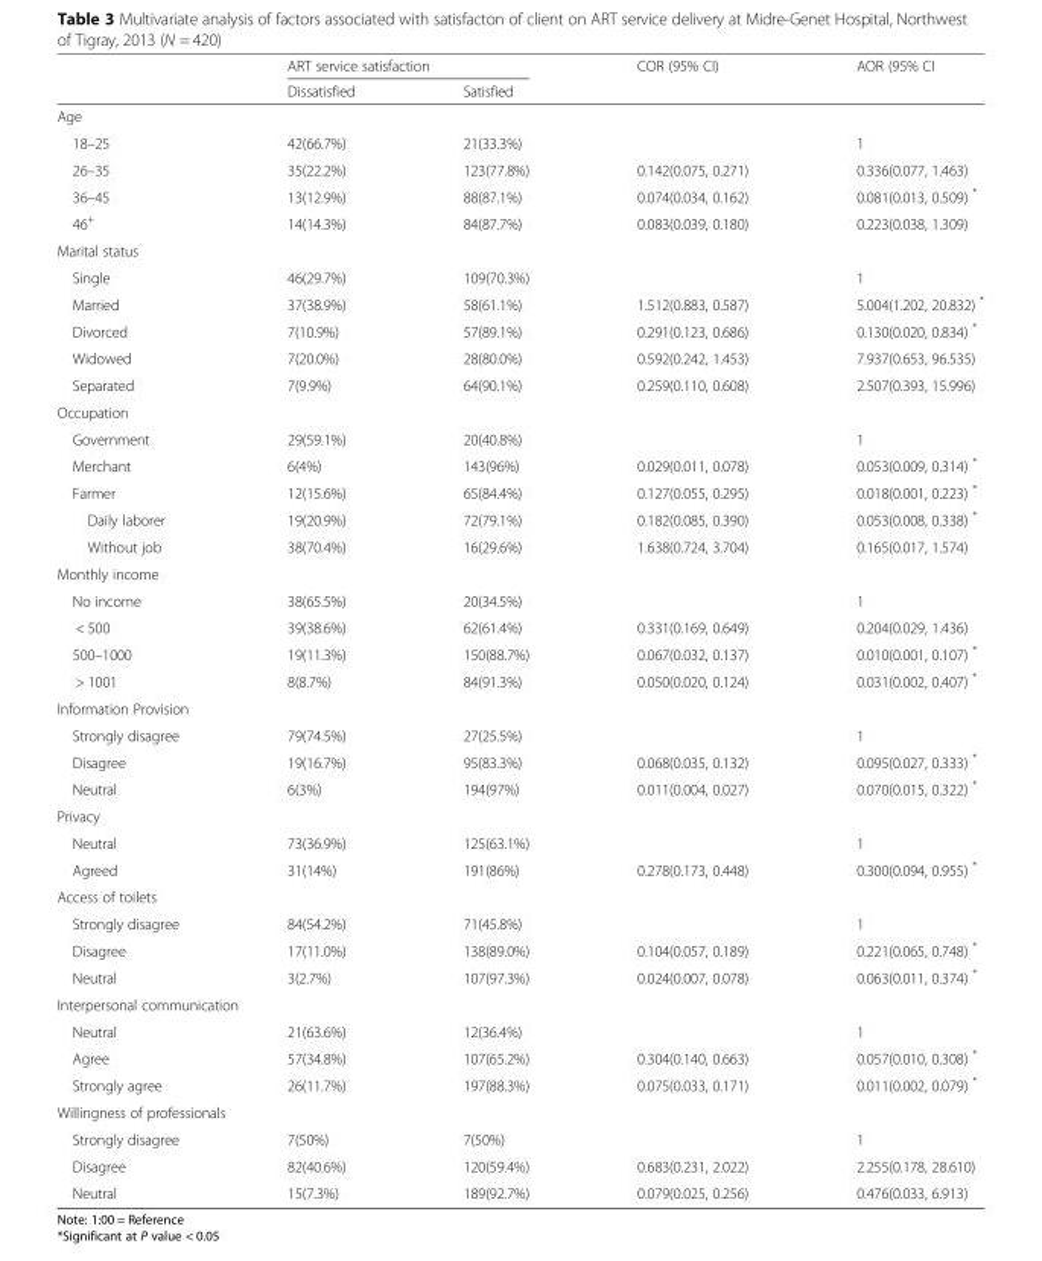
<table><thead><tr><td rowspan="2"></td><td colspan="2">ART service satisfaction</td><td rowspan="2">COR (95% CI)</td><td rowspan="2">AOR (95% CI</td></tr><tr><td>Dissatisfied</td><td>Satisfied</td></tr></thead><tbody><tr><td colspan="5">Age</td></tr><tr><td>18–25</td><td>42(66.7%)</td><td>21(33.3%)</td><td></td><td>1</td></tr><tr><td>26–35</td><td>35(22.2%)</td><td>123(77.8%)</td><td>0.142(0.075, 0.271)</td><td>0.336(0.077, 1.463)</td></tr><tr><td>36–45</td><td>13(12.9%)</td><td>88(87.1%)</td><td>0.074(0.034, 0.162)</td><td>0.081(0.013, 0.509) *</td></tr><tr><td>46<sup>+</sup></td><td>14(14.3%)</td><td>84(87.7%)</td><td>0.083(0.039, 0.180)</td><td>0.223(0.038, 1.309)</td></tr><tr><td colspan="5">Marital status</td></tr><tr><td>Single</td><td>46(29.7%)</td><td>109(70.3%)</td><td></td><td>1</td></tr><tr><td>Married</td><td>37(38.9%)</td><td>58(61.1%)</td><td>1.512(0.883, 0.587)</td><td>5.004(1.202, 20.832) *</td></tr><tr><td>Divorced</td><td>7(10.9%)</td><td>57(89.1%)</td><td>0.291(0.123, 0.686)</td><td>0.130(0.020, 0.834) *</td></tr><tr><td>Widowed</td><td>7(20.0%)</td><td>28(80.0%)</td><td>0.592(0.242, 1.453)</td><td>7.937(0.653, 96.535)</td></tr><tr><td>Separated</td><td>7(9.9%)</td><td>64(90.1%)</td><td>0.259(0.110, 0.608)</td><td>2.507(0.393, 15.996)</td></tr><tr><td colspan="5">Occupation</td></tr><tr><td>Government</td><td>29(59.1%)</td><td>20(40.8%)</td><td></td><td>1</td></tr><tr><td>Merchant</td><td>6(4%)</td><td>143(96%)</td><td>0.029(0.011, 0.078)</td><td>0.053(0.009, 0.314) *</td></tr><tr><td>Farmer</td><td>12(15.6%)</td><td>65(84.4%)</td><td>0.127(0.055, 0.295)</td><td>0.018(0.001, 0.223) *</td></tr><tr><td>Daily laborer</td><td>19(20.9%)</td><td>72(79.1%)</td><td>0.182(0.085, 0.390)</td><td>0.053(0.008, 0.338) *</td></tr><tr><td>Without job</td><td>38(70.4%)</td><td>16(29.6%)</td><td>1.638(0.724, 3.704)</td><td>0.165(0.017, 1.574)</td></tr><tr><td colspan="5">Monthly income</td></tr><tr><td>No income</td><td>38(65.5%)</td><td>20(34.5%)</td><td></td><td>1</td></tr><tr><td>&lt; 500</td><td>39(38.6%)</td><td>62(61.4%)</td><td>0.331(0.169, 0.649)</td><td>0.204(0.029, 1.436)</td></tr><tr><td>500–1000</td><td>19(11.3%)</td><td>150(88.7%)</td><td>0.067(0.032, 0.137)</td><td>0.010(0.001, 0.107) *</td></tr><tr><td>&gt; 1001</td><td>8(8.7%)</td><td>84(91.3%)</td><td>0.050(0.020, 0.124)</td><td>0.031(0.002, 0.407) *</td></tr><tr><td colspan="5">Information Provision</td></tr><tr><td>Strongly disagree</td><td>79(74.5%)</td><td>27(25.5%)</td><td></td><td>1</td></tr><tr><td>Disagree</td><td>19(16.7%)</td><td>95(83.3%)</td><td>0.068(0.035, 0.132)</td><td>0.095(0.027, 0.333) *</td></tr><tr><td>Neutral</td><td>6(3%)</td><td>194(97%)</td><td>0.011(0.004, 0.027)</td><td>0.070(0.015, 0.322) *</td></tr><tr><td colspan="5">Privacy</td></tr><tr><td>Neutral</td><td>73(36.9%)</td><td>125(63.1%)</td><td></td><td>1</td></tr><tr><td>Agreed</td><td>31(14%)</td><td>191(86%)</td><td>0.278(0.173, 0.448)</td><td>0.300(0.094, 0.955) *</td></tr><tr><td colspan="5">Access of toilets</td></tr><tr><td>Strongly disagree</td><td>84(54.2%)</td><td>71(45.8%)</td><td></td><td>1</td></tr><tr><td>Disagree</td><td>17(11.0%)</td><td>138(89.0%)</td><td>0.104(0.057, 0.189)</td><td>0.221(0.065, 0.748) *</td></tr><tr><td>Neutral</td><td>3(2.7%)</td><td>107(97.3%)</td><td>0.024(0.007, 0.078)</td><td>0.063(0.011, 0.374) *</td></tr><tr><td colspan="5">Interpersonal communication</td></tr><tr><td>Neutral</td><td>21(63.6%)</td><td>12(36.4%)</td><td></td><td>1</td></tr><tr><td>Agree</td><td>57(34.8%)</td><td>107(65.2%)</td><td>0.304(0.140, 0.663)</td><td>0.057(0.010, 0.308) *</td></tr><tr><td>Strongly agree</td><td>26(11.7%)</td><td>197(88.3%)</td><td>0.075(0.033, 0.171)</td><td>0.011(0.002, 0.079) *</td></tr><tr><td colspan="5">Willingness of professionals</td></tr><tr><td>Strongly disagree</td><td>7(50%)</td><td>7(50%)</td><td></td><td>1</td></tr><tr><td>Disagree</td><td>82(40.6%)</td><td>120(59.4%)</td><td>0.683(0.231, 2.022)</td><td>2.255(0.178, 28.610)</td></tr><tr><td>Neutral</td><td>15(7.3%)</td><td>189(92.7%)</td><td>0.079(0.025, 0.256)</td><td>0.476(0.033, 6.913)</td></tr></tbody></table>